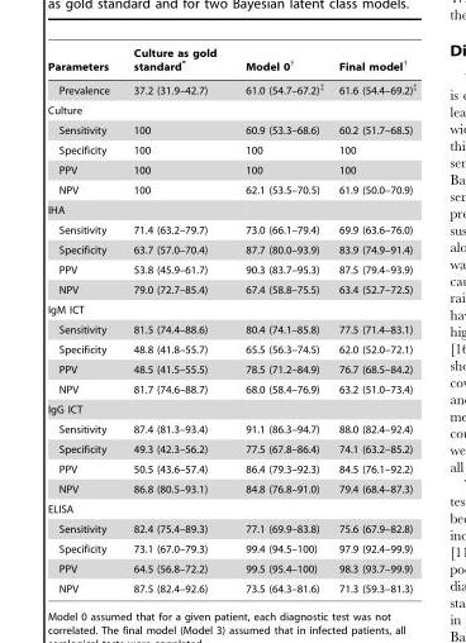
<table><thead><tr><td>Parameters</td><td>Culture as gold standard*</td><td>Model 0†</td><td>Final model†</td></tr></thead><tbody><tr><td>Prevalence</td><td>37.2 (31.9–42.7)</td><td>61.0 (54.7–67.2)‡</td><td>61.6 (54.4–69.2)‡</td></tr><tr><td colspan="4">Culture</td></tr><tr><td>Sensitivity</td><td>100</td><td>60.9 (53.3–68.6)</td><td>60.2 (51.7–68.5)</td></tr><tr><td>Specificity</td><td>100</td><td>100</td><td>100</td></tr><tr><td>PPV</td><td>100</td><td>100</td><td>100</td></tr><tr><td>NPV</td><td>100</td><td>62.1 (53.5–70.5)</td><td>61.9 (50.0–70.9)</td></tr><tr><td colspan="4">IHA</td></tr><tr><td>Sensitivity</td><td>71.4 (63.2–79.7)</td><td>73.0 (66.1–79.4)</td><td>69.9 (63.6–76.0)</td></tr><tr><td>Specificity</td><td>63.7 (57.0–70.4)</td><td>87.7 (80.0–93.9)</td><td>83.9 (74.9–91.4)</td></tr><tr><td>PPV</td><td>53.8 (45.9–61.7)</td><td>90.3 (83.7–95.3)</td><td>87.5 (79.4–93.9)</td></tr><tr><td>NPV</td><td>79.0 (72.7–85.4)</td><td>67.4 (58.8–75.5)</td><td>63.4 (52.7–72.5)</td></tr><tr><td colspan="4">IgM ICT</td></tr><tr><td>Sensitivity</td><td>81.5 (74.4–88.6)</td><td>80.4 (74.1–85.8)</td><td>77.5 (71.4–83.1)</td></tr><tr><td>Specificity</td><td>48.8 (41.8–55.7)</td><td>65.5 (56.3–74.5)</td><td>62.0 (52.0–72.1)</td></tr><tr><td>PPV</td><td>48.5 (41.5–55.5)</td><td>78.5 (71.2–84.9)</td><td>76.7 (68.5–84.2)</td></tr><tr><td>NPV</td><td>81.7 (74.6–88.7)</td><td>68.0 (58.4–76.9)</td><td>63.2 (51.0–73.4)</td></tr><tr><td colspan="4">IgG ICT</td></tr><tr><td>Sensitivity</td><td>87.4 (81.3–93.4)</td><td>91.1 (86.3–94.7)</td><td>88.0 (82.4–92.4)</td></tr><tr><td>Specificity</td><td>49.3 (42.3–56.2)</td><td>77.5 (67.8–86.4)</td><td>74.1 (63.2–85.2)</td></tr><tr><td>PPV</td><td>50.5 (43.6–57.4)</td><td>86.4 (79.3–92.3)</td><td>84.5 (76.1–92.2)</td></tr><tr><td>NPV</td><td>86.8 (80.5–93.1)</td><td>84.8 (76.8–91.0)</td><td>79.4 (68.4–87.3)</td></tr><tr><td colspan="4">ELISA</td></tr><tr><td>Sensitivity</td><td>82.4 (75.4–89.3)</td><td>77.1 (69.9–83.8)</td><td>75.6 (67.9–82.8)</td></tr><tr><td>Specificity</td><td>73.1 (67.0–79.3)</td><td>99.4 (94.5–100)</td><td>97.9 (92.4–99.9)</td></tr><tr><td>PPV</td><td>64.5 (56.8–72.2)</td><td>99.5 (95.4–100)</td><td>98.3 (93.7–99.9)</td></tr><tr><td>NPV</td><td>87.5 (82.4–92.6)</td><td>73.5 (64.3–81.6)</td><td>71.3 (59.3–81.3)</td></tr></tbody></table>